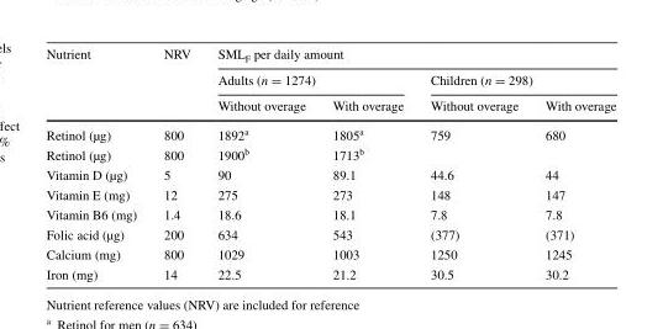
<table><thead><tr><td rowspan="3">Nutrient</td><td rowspan="3">NRV</td><td colspan="4">SML<sub>F</sub> per daily amount</td></tr><tr><td colspan="2">Adults (n = 1274)</td><td colspan="2">Children (n = 298)</td></tr><tr><td>Without overage</td><td>With overage</td><td>Without overage</td><td>With overage</td></tr></thead><tbody><tr><td>Retinol (µg)</td><td>800</td><td>1892<sup>a</sup></td><td>1805<sup>a</sup></td><td>759</td><td>680</td></tr><tr><td>Retinol (µg)</td><td>800</td><td>1900<sup>b</sup></td><td>1713<sup>b</sup></td><td></td><td></td></tr><tr><td>Vitamin D (µg)</td><td>5</td><td>90</td><td>89.1</td><td>44.6</td><td>44</td></tr><tr><td>Vitamin E (mg)</td><td>12</td><td>275</td><td>273</td><td>148</td><td>147</td></tr><tr><td>Vitamin B6 (mg)</td><td>1.4</td><td>18.6</td><td>18.1</td><td>7.8</td><td>7.8</td></tr><tr><td>Folic acid (µg)</td><td>200</td><td>634</td><td>543</td><td>(377)</td><td>(371)</td></tr><tr><td>Calcium (mg)</td><td>800</td><td>1029</td><td>1003</td><td>1250</td><td>1245</td></tr><tr><td>Iron (mg)</td><td>14</td><td>22.5</td><td>21.2</td><td>30.5</td><td>30.2</td></tr></tbody></table>